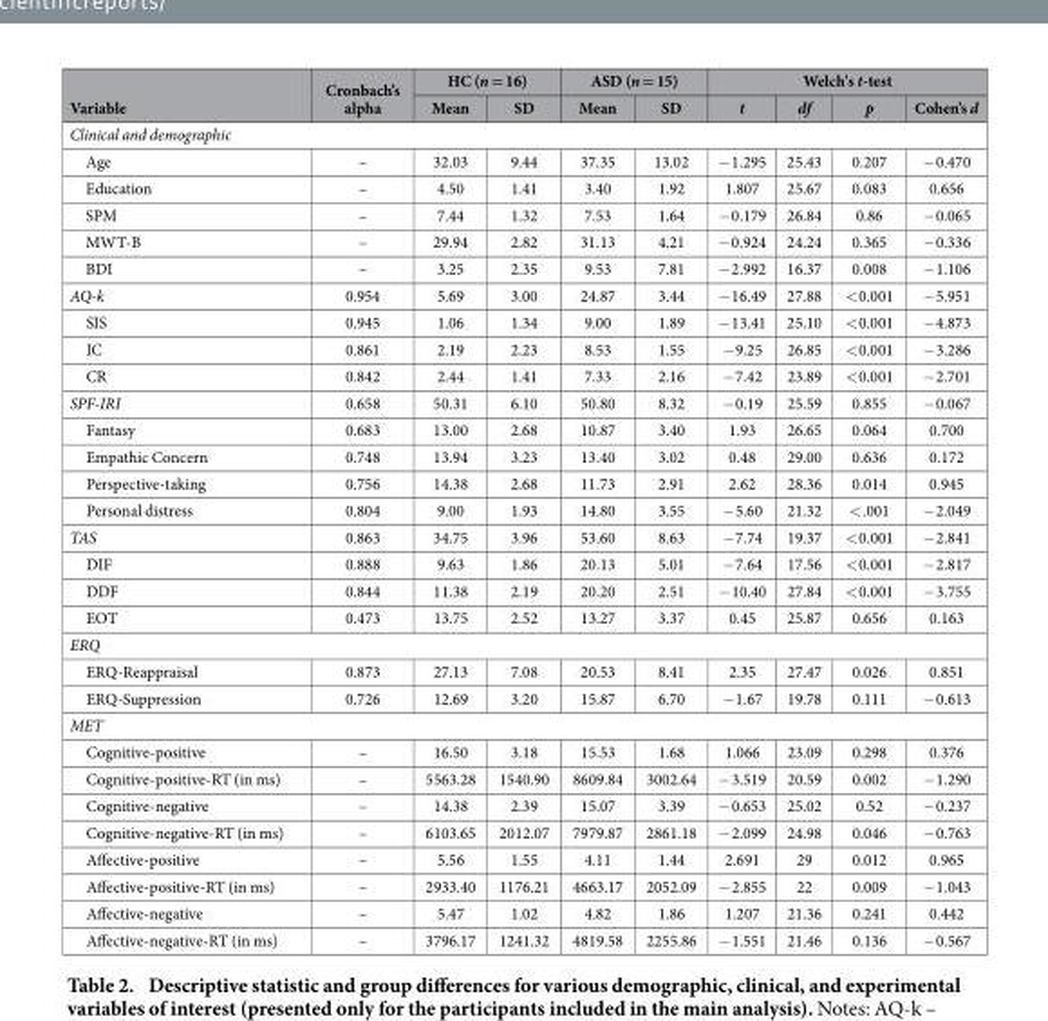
<table><thead><tr><td rowspan="2">Variable</td><td rowspan="2">Cronbach’s alpha</td><td colspan="2">HC (n = 16)</td><td colspan="2">ASD (n = 15)</td><td colspan="4">Welch&#x27;s t-test</td></tr><tr><td>Mean</td><td>SD</td><td>Mean</td><td>SD</td><td>t</td><td>df</td><td>p</td><td>Cohen’s d</td></tr></thead><tbody><tr><td colspan="10">Clinical and demographic</td></tr><tr><td>Age</td><td>–</td><td>32.03</td><td>9.44</td><td>37.35</td><td>13.02</td><td>− 1.295</td><td>25.43</td><td>0.207</td><td>− 0.470</td></tr><tr><td>Education</td><td>–</td><td>4.50</td><td>1.41</td><td>3.40</td><td>1.92</td><td>1.807</td><td>25.67</td><td>0.083</td><td>0.656</td></tr><tr><td>SPM</td><td>–</td><td>7.44</td><td>1.32</td><td>7.53</td><td>1.64</td><td>− 0.179</td><td>26.84</td><td>0.86</td><td>− 0.065</td></tr><tr><td>MWT-B</td><td>–</td><td>29.94</td><td>2.82</td><td>31.13</td><td>4.21</td><td>− 0.924</td><td>24.24</td><td>0.365</td><td>− 0.336</td></tr><tr><td>BDI</td><td>–</td><td>3.25</td><td>2.35</td><td>9.53</td><td>7.81</td><td>− 2.992</td><td>16.37</td><td>0.008</td><td>− 1.106</td></tr><tr><td>AQ-k</td><td>0.954</td><td>5.69</td><td>3.00</td><td>24.87</td><td>3.44</td><td>− 16.49</td><td>27.88</td><td>&lt; 0.001</td><td>− 5.951</td></tr><tr><td>SIS</td><td>0.945</td><td>1.06</td><td>1.34</td><td>9.00</td><td>1.89</td><td>− 13.41</td><td>25.10</td><td>&lt; 0.001</td><td>− 4.873</td></tr><tr><td>IC</td><td>0.861</td><td>2.19</td><td>2.23</td><td>8.53</td><td>1.55</td><td>− 9.25</td><td>26.85</td><td>&lt; 0.001</td><td>− 3.286</td></tr><tr><td>CR</td><td>0.842</td><td>2.44</td><td>1.41</td><td>7.33</td><td>2.16</td><td>− 7.42</td><td>23.89</td><td>&lt; 0.001</td><td>− 2.701</td></tr><tr><td>SPF-IRI</td><td>0.658</td><td>50.31</td><td>6.10</td><td>50.80</td><td>8.32</td><td>− 0.19</td><td>25.59</td><td>0.855</td><td>− 0.067</td></tr><tr><td>Fantasy</td><td>0.683</td><td>13.00</td><td>2.68</td><td>10.87</td><td>3.40</td><td>1.93</td><td>26.65</td><td>0.064</td><td>0.700</td></tr><tr><td>Empathic Concern</td><td>0.748</td><td>13.94</td><td>3.23</td><td>13.40</td><td>3.02</td><td>0.48</td><td>29.00</td><td>0.636</td><td>0.172</td></tr><tr><td>Perspective-taking</td><td>0.756</td><td>14.38</td><td>2.68</td><td>11.73</td><td>2.91</td><td>2.62</td><td>28.36</td><td>0.014</td><td>0.945</td></tr><tr><td>Personal distress</td><td>0.804</td><td>9.00</td><td>1.93</td><td>14.80</td><td>3.55</td><td>− 5.60</td><td>21.32</td><td>&lt; .001</td><td>− 2.049</td></tr><tr><td>TAS</td><td>0.863</td><td>34.75</td><td>3.96</td><td>53.60</td><td>8.63</td><td>− 7.74</td><td>19.37</td><td>&lt; 0.001</td><td>− 2.841</td></tr><tr><td>DIF</td><td>0.888</td><td>9.63</td><td>1.86</td><td>20.13</td><td>5.01</td><td>− 7.64</td><td>17.56</td><td>&lt; 0.001</td><td>− 2.817</td></tr><tr><td>DDF</td><td>0.844</td><td>11.38</td><td>2.19</td><td>20.20</td><td>2.51</td><td>− 10.40</td><td>27.84</td><td>&lt; 0.001</td><td>− 3.755</td></tr><tr><td>EOT</td><td>0.473</td><td>13.75</td><td>2.52</td><td>13.27</td><td>3.37</td><td>0.45</td><td>25.87</td><td>0.656</td><td>0.163</td></tr><tr><td colspan="10">ERQ</td></tr><tr><td>ERQ-Reappraisal</td><td>0.873</td><td>27.13</td><td>7.08</td><td>20.53</td><td>8.41</td><td>2.35</td><td>27.47</td><td>0.026</td><td>0.851</td></tr><tr><td>ERQ-Suppression</td><td>0.726</td><td>12.69</td><td>3.20</td><td>15.87</td><td>6.70</td><td>− 1.67</td><td>19.78</td><td>0.111</td><td>− 0.613</td></tr><tr><td colspan="10">MET</td></tr><tr><td>Cognitive-positive</td><td>–</td><td>16.50</td><td>3.18</td><td>15.53</td><td>1.68</td><td>1.066</td><td>23.09</td><td>0.298</td><td>0.376</td></tr><tr><td>Cognitive-positive-RT (in ms)</td><td>–</td><td>5563.28</td><td>1540.90</td><td>8609.84</td><td>3002.64</td><td>− 3.519</td><td>20.59</td><td>0.002</td><td>− 1.290</td></tr><tr><td>Cognitive-negative</td><td>–</td><td>14.38</td><td>2.39</td><td>15.07</td><td>3.39</td><td>− 0.653</td><td>25.02</td><td>0.52</td><td>− 0.237</td></tr><tr><td>Cognitive-negative-RT (in ms)</td><td>–</td><td>6103.65</td><td>2012.07</td><td>7979.87</td><td>2861.18</td><td>− 2.099</td><td>24.98</td><td>0.046</td><td>− 0.763</td></tr><tr><td>Affective-positive</td><td>–</td><td>5.56</td><td>1.55</td><td>4.11</td><td>1.44</td><td>2.691</td><td>29</td><td>0.012</td><td>0.965</td></tr><tr><td>Affective-positive-RT (in ms)</td><td>–</td><td>2933.40</td><td>1176.21</td><td>4663.17</td><td>2052.09</td><td>− 2.855</td><td>22</td><td>0.009</td><td>− 1.043</td></tr><tr><td>Affective-negative</td><td>–</td><td>5.47</td><td>1.02</td><td>4.82</td><td>1.86</td><td>1.207</td><td>21.36</td><td>0.241</td><td>0.442</td></tr><tr><td>Affective-negative-RT (in ms)</td><td>–</td><td>3796.17</td><td>1241.32</td><td>4819.58</td><td>2255.86</td><td>− 1.551</td><td>21.46</td><td>0.136</td><td>− 0.567</td></tr></tbody></table>